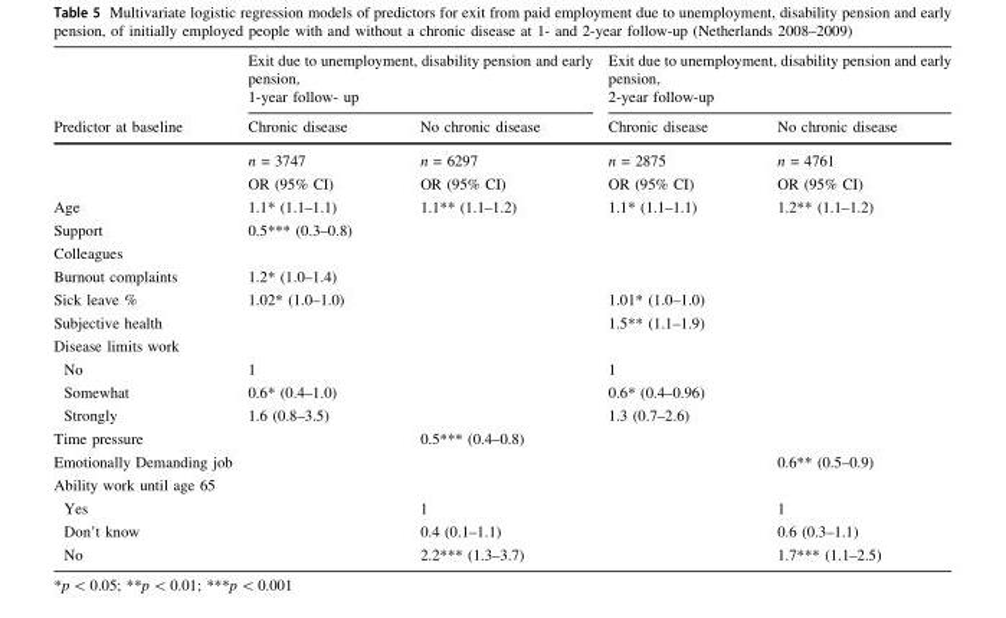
<table><thead><tr><td rowspan="2">Predictor at baseline</td><td colspan="2">Exit due to unemployment, disability pension and early pension, 1-year follow- up</td><td colspan="2">Exit due to unemployment, disability pension and early pension, 2-year follow-up</td></tr><tr><td>Chronic disease</td><td>No chronic disease</td><td>Chronic disease</td><td>No chronic disease</td></tr></thead><tbody><tr><td></td><td>n = 3747</td><td>n = 6297</td><td>n = 2875</td><td>n = 4761</td></tr><tr><td></td><td>OR (95% CI)</td><td>OR (95% CI)</td><td>OR (95% CI)</td><td>OR (95% CI)</td></tr><tr><td>Age</td><td>1.1* (1.1–1.1)</td><td>1.1** (1.1–1.2)</td><td>1.1* (1.1–1.1)</td><td>1.2** (1.1–1.2)</td></tr><tr><td>Support</td><td>0.5*** (0.3–0.8)</td><td></td><td></td><td></td></tr><tr><td colspan="5">Colleagues</td></tr><tr><td>Burnout complaints</td><td>1.2* (1.0–1.4)</td><td></td><td></td><td></td></tr><tr><td>Sick leave %</td><td>1.02* (1.0–1.0)</td><td></td><td>1.01* (1.0–1.0)</td><td></td></tr><tr><td>Subjective health</td><td></td><td></td><td>1.5** (1.1–1.9)</td><td></td></tr><tr><td colspan="5">Disease limits work</td></tr><tr><td>No</td><td>1</td><td></td><td>1</td><td></td></tr><tr><td>Somewhat</td><td>0.6* (0.4–1.0)</td><td></td><td>0.6* (0.4–0.96)</td><td></td></tr><tr><td>Strongly</td><td>1.6 (0.8–3.5)</td><td></td><td>1.3 (0.7–2.6)</td><td></td></tr><tr><td>Time pressure</td><td></td><td>0.5*** (0.4–0.8)</td><td></td><td></td></tr><tr><td>Emotionally Demanding job</td><td></td><td></td><td></td><td>0.6** (0.5–0.9)</td></tr><tr><td colspan="5">Ability work until age 65</td></tr><tr><td>Yes</td><td></td><td>1</td><td></td><td>1</td></tr><tr><td>Don’t know</td><td></td><td>0.4 (0.1–1.1)</td><td></td><td>0.6 (0.3–1.1)</td></tr><tr><td>No</td><td></td><td>2.2*** (1.3–3.7)</td><td></td><td>1.7*** (1.1–2.5)</td></tr></tbody></table>